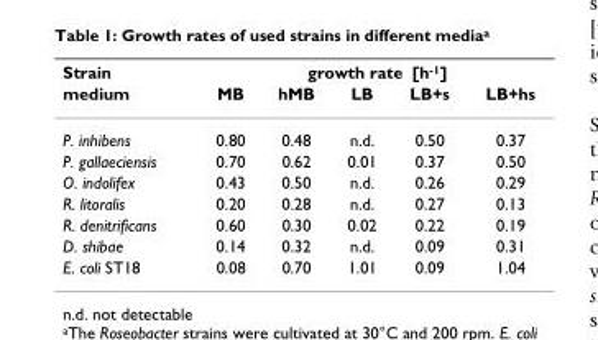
<table><thead><tr><td rowspan="2">Strain medium</td><td colspan="5">growth rate [h-1]</td></tr><tr><td>MB</td><td>hMB</td><td>LB</td><td>LB+s</td><td>LB+hs</td></tr></thead><tbody><tr><td>P. inhibens</td><td>0.80</td><td>0.48</td><td>n.d.</td><td>0.50</td><td>0.37</td></tr><tr><td>P. gallaeciensis</td><td>0.70</td><td>0.62</td><td>0.01</td><td>0.37</td><td>0.50</td></tr><tr><td>O. indolifex</td><td>0.43</td><td>0.50</td><td>n.d.</td><td>0.26</td><td>0.29</td></tr><tr><td>R. litoralis</td><td>0.20</td><td>0.28</td><td>n.d.</td><td>0.27</td><td>0.13</td></tr><tr><td>R. denitrificans</td><td>0.60</td><td>0.30</td><td>0.02</td><td>0.22</td><td>0.19</td></tr><tr><td>D. shibae</td><td>0.14</td><td>0.32</td><td>n.d.</td><td>0.09</td><td>0.31</td></tr><tr><td>E. coli ST18</td><td>0.08</td><td>0.70</td><td>1.01</td><td>0.09</td><td>1.04</td></tr></tbody></table>